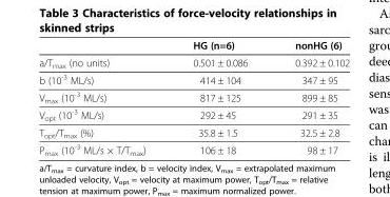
<table><thead><tr><td></td><td>HG (n=6)</td><td>nonHG (6)</td></tr></thead><tbody><tr><td>a/T<sub>max</sub> (no units)</td><td>0.501 ± 0.086</td><td>0.392 ± 0.102</td></tr><tr><td>b (10<sup>-3</sup> ML/s)</td><td>414 ± 104</td><td>347 ± 95</td></tr><tr><td>V<sub>max</sub> (10<sup>-3</sup> ML/s)</td><td>817 ± 125</td><td>899 ± 85</td></tr><tr><td>V<sub>opt</sub> (10<sup>-3</sup> ML/s)</td><td>292 ± 45</td><td>291 ± 35</td></tr><tr><td>T<sub>opt</sub>/T<sub>max</sub> (%)</td><td>35.8 ± 1.5</td><td>32.5 ± 2.8</td></tr><tr><td>P<sub>max</sub> (10<sup>-3</sup> ML/s × T/T<sub>max</sub>)</td><td>106 ± 18</td><td>98 ± 17</td></tr></tbody></table>